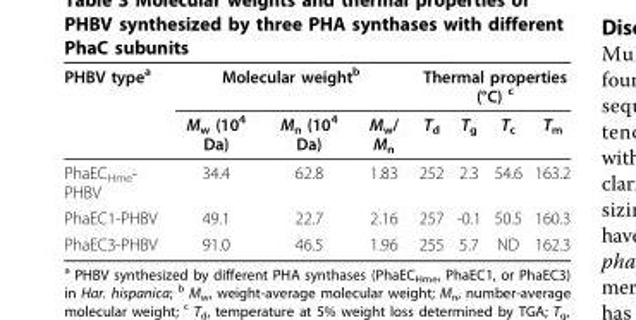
<table><thead><tr><td rowspan="2">PHBV type<sup>a</sup></td><td colspan="3">Molecular weight<sup>b</sup></td><td colspan="4">Thermal properties (°C) <sup>c</sup></td></tr><tr><td>M<sub>w</sub> (10<sup>4</sup> Da)</td><td>M<sub>n</sub> (10<sup>4</sup> Da)</td><td>M<sub>w</sub>/ M<sub>n</sub></td><td>T<sub>d</sub></td><td>T<sub>g</sub></td><td>T<sub>c</sub></td><td>T<sub>m</sub></td></tr></thead><tbody><tr><td>PhaEC<sub>Hme</sub>- PHBV</td><td>34.4</td><td>62.8</td><td>1.83</td><td>252</td><td>2.3</td><td>54.6</td><td>163.2</td></tr><tr><td>PhaEC1-PHBV</td><td>49.1</td><td>22.7</td><td>2.16</td><td>257</td><td>-0.1</td><td>50.5</td><td>160.3</td></tr><tr><td>PhaEC3-PHBV</td><td>91.0</td><td>46.5</td><td>1.96</td><td>255</td><td>5.7</td><td>ND</td><td>162.3</td></tr></tbody></table>